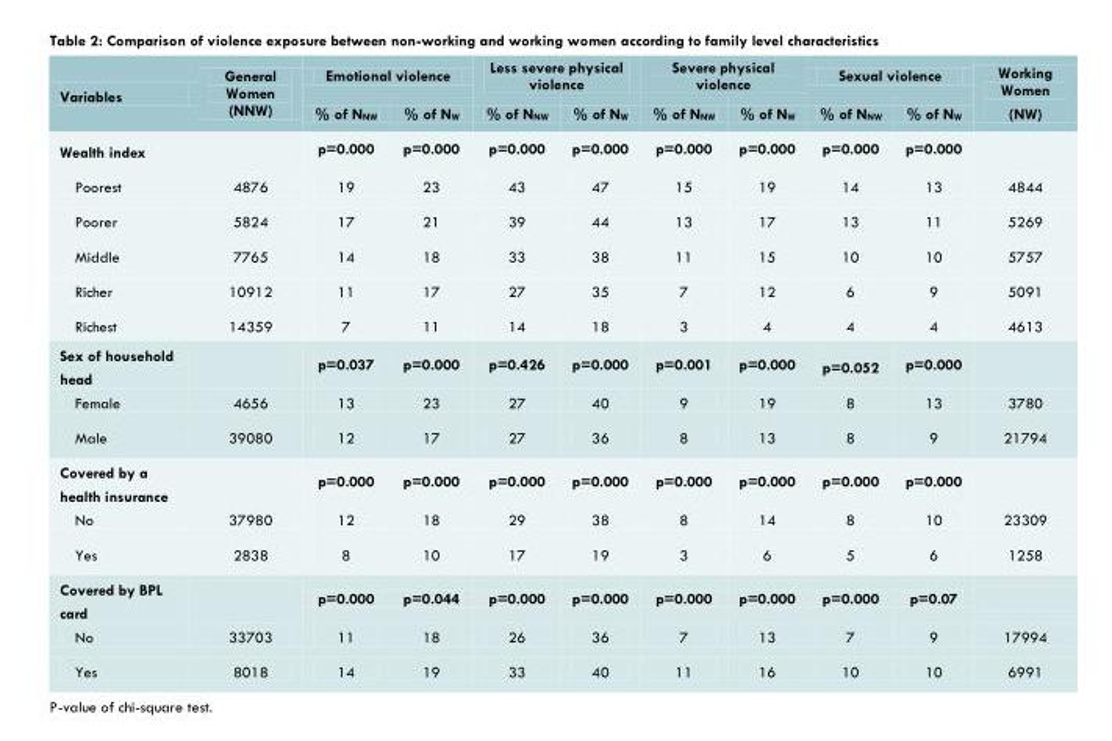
<table><thead><tr><td rowspan="2">Variables</td><td rowspan="2">General Women (NNW)</td><td colspan="2">Emotional violence</td><td colspan="2">Less severe physical violence</td><td colspan="2">Severe physical violence</td><td colspan="2">Sexual violence</td><td rowspan="2">Working Women (NW)</td></tr><tr><td>% of NNW</td><td>% of NW</td><td>% of NNW</td><td>% of NW</td><td>% of NNW</td><td>% of NW</td><td>% of NNW</td><td>% of NW</td></tr></thead><tbody><tr><td>Wealth index</td><td></td><td>p=0.000</td><td>p=0.000</td><td>p=0.000</td><td>p=0.000</td><td>p=0.000</td><td>p=0.000</td><td>p=0.000</td><td>p=0.000</td><td></td></tr><tr><td>Poorest</td><td>4876</td><td>19</td><td>23</td><td>43</td><td>47</td><td>15</td><td>19</td><td>14</td><td>13</td><td>4844</td></tr><tr><td>Poorer</td><td>5824</td><td>17</td><td>21</td><td>39</td><td>44</td><td>13</td><td>17</td><td>13</td><td>11</td><td>5269</td></tr><tr><td>Middle</td><td>7765</td><td>14</td><td>18</td><td>33</td><td>38</td><td>11</td><td>15</td><td>10</td><td>10</td><td>5757</td></tr><tr><td>Richer</td><td>10912</td><td>11</td><td>17</td><td>27</td><td>35</td><td>7</td><td>12</td><td>6</td><td>9</td><td>5091</td></tr><tr><td>Richest</td><td>14359</td><td>7</td><td>11</td><td>14</td><td>18</td><td>3</td><td>4</td><td>4</td><td>4</td><td>4613</td></tr><tr><td>Sex of household head</td><td></td><td>p=0.037</td><td>p=0.000</td><td>p=0.426</td><td>p=0.000</td><td>p=0.001</td><td>p=0.000</td><td>p=0.052</td><td>p=0.000</td><td></td></tr><tr><td>Female</td><td>4656</td><td>13</td><td>23</td><td>27</td><td>40</td><td>9</td><td>19</td><td>8</td><td>13</td><td>3780</td></tr><tr><td>Male</td><td>39080</td><td>12</td><td>17</td><td>27</td><td>36</td><td>8</td><td>13</td><td>8</td><td>9</td><td>21794</td></tr><tr><td>Covered by a health insurance</td><td></td><td>p=0.000</td><td>p=0.000</td><td>p=0.000</td><td>p=0.000</td><td>p=0.000</td><td>p=0.000</td><td>p=0.000</td><td>p=0.000</td><td></td></tr><tr><td>No</td><td>37980</td><td>12</td><td>18</td><td>29</td><td>38</td><td>8</td><td>14</td><td>8</td><td>10</td><td>23309</td></tr><tr><td>Yes</td><td>2838</td><td>8</td><td>10</td><td>17</td><td>19</td><td>3</td><td>6</td><td>5</td><td>6</td><td>1258</td></tr><tr><td>Covered by BPL card</td><td></td><td>p=0.000</td><td>p=0.044</td><td>p=0.000</td><td>p=0.000</td><td>p=0.000</td><td>p=0.000</td><td>p=0.000</td><td>p=0.07</td><td></td></tr><tr><td>No</td><td>33703</td><td>11</td><td>18</td><td>26</td><td>36</td><td>7</td><td>13</td><td>7</td><td>9</td><td>17994</td></tr><tr><td>Yes</td><td>8018</td><td>14</td><td>19</td><td>33</td><td>40</td><td>11</td><td>16</td><td>10</td><td>10</td><td>6991</td></tr></tbody></table>